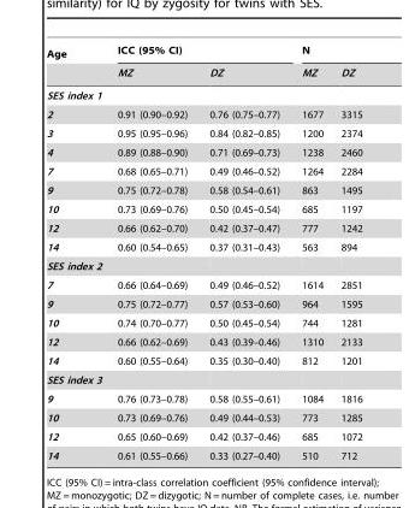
<table><thead><tr><td rowspan="2">Age</td><td colspan="2">ICC (95% CI)</td><td colspan="2">N</td></tr><tr><td>MZ</td><td>DZ</td><td>MZ</td><td>DZ</td></tr></thead><tbody><tr><td colspan="5">SES index 1</td></tr><tr><td>2</td><td>0.91 (0.90–0.92)</td><td>0.76 (0.75–0.77)</td><td>1677</td><td>3315</td></tr><tr><td>3</td><td>0.95 (0.95–0.96)</td><td>0.84 (0.82–0.85)</td><td>1200</td><td>2374</td></tr><tr><td>4</td><td>0.89 (0.88–0.90)</td><td>0.71 (0.69–0.73)</td><td>1238</td><td>2460</td></tr><tr><td>7</td><td>0.68 (0.65–0.71)</td><td>0.49 (0.46–0.52)</td><td>1264</td><td>2284</td></tr><tr><td>9</td><td>0.75 (0.72–0.78)</td><td>0.58 (0.54–0.61)</td><td>863</td><td>1495</td></tr><tr><td>10</td><td>0.73 (0.69–0.76)</td><td>0.50 (0.45–0.54)</td><td>685</td><td>1197</td></tr><tr><td>12</td><td>0.66 (0.62–0.70)</td><td>0.42 (0.37–0.47)</td><td>777</td><td>1242</td></tr><tr><td>14</td><td>0.60 (0.54–0.65)</td><td>0.37 (0.31–0.43)</td><td>563</td><td>894</td></tr><tr><td colspan="5">SES index 2</td></tr><tr><td>7</td><td>0.66 (0.64–0.69)</td><td>0.49 (0.46–0.52)</td><td>1614</td><td>2851</td></tr><tr><td>9</td><td>0.75 (0.72–0.77)</td><td>0.57 (0.53–0.60)</td><td>964</td><td>1595</td></tr><tr><td>10</td><td>0.74 (0.70–0.77)</td><td>0.50 (0.45–0.54)</td><td>744</td><td>1281</td></tr><tr><td>12</td><td>0.66 (0.62–0.69)</td><td>0.43 (0.39–0.46)</td><td>1310</td><td>2133</td></tr><tr><td>14</td><td>0.60 (0.55–0.64)</td><td>0.35 (0.30–0.40)</td><td>812</td><td>1201</td></tr><tr><td colspan="5">SES index 3</td></tr><tr><td>9</td><td>0.76 (0.73–0.78)</td><td>0.58 (0.55–0.61)</td><td>1084</td><td>1816</td></tr><tr><td>10</td><td>0.73 (0.69–0.76)</td><td>0.49 (0.44–0.53)</td><td>773</td><td>1285</td></tr><tr><td>12</td><td>0.65 (0.60–0.69)</td><td>0.42 (0.37–0.46)</td><td>685</td><td>1072</td></tr><tr><td>14</td><td>0.61 (0.55–0.66)</td><td>0.33 (0.27–0.40)</td><td>510</td><td>712</td></tr></tbody></table>